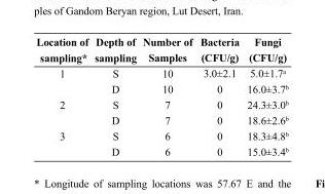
<table><thead><tr><td>Location of sampling*</td><td>Depth of sampling</td><td>Number of Samples</td><td>Bacteria (CFU/g)</td><td>Fungi (CFU/g)</td></tr></thead><tbody><tr><td rowspan="2">1</td><td>S</td><td>10</td><td>3.0±2.1</td><td>5.0±1.7<sup>a</sup></td></tr><tr><td>D</td><td>10</td><td>0</td><td>16.0±3.7<sup>b</sup></td></tr><tr><td rowspan="2">2</td><td>S</td><td>7</td><td>0</td><td>24.3±3.0<sup>b</sup></td></tr><tr><td>D</td><td>7</td><td>0</td><td>18.6±2.6<sup>b</sup></td></tr><tr><td rowspan="2">3</td><td>S</td><td>6</td><td>0</td><td>18.3±4.8<sup>b</sup></td></tr><tr><td>D</td><td>6</td><td>0</td><td>15.0±3.4<sup>b</sup></td></tr></tbody></table>